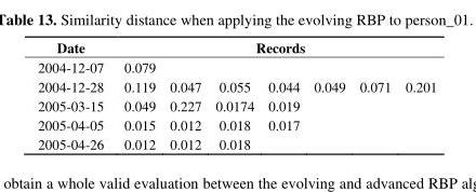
<table><thead><tr><td rowspan="2">Date 2004-12-07</td><td colspan="7">Records</td></tr><tr><td>0.079</td><td></td><td></td><td></td><td></td><td></td><td></td></tr></thead><tbody><tr><td>2004-12-28</td><td>0.119</td><td>0.047</td><td>0.055</td><td>0.044</td><td>0.049</td><td>0.071</td><td>0.201</td></tr><tr><td>2005-03-15</td><td>0.049</td><td>0.227</td><td>0.0174</td><td>0.019</td><td></td><td></td><td></td></tr><tr><td>2005-04-05</td><td>0.015</td><td>0.012</td><td>0.018</td><td>0.017</td><td></td><td></td><td></td></tr><tr><td>2005-04-26</td><td>0.012</td><td>0.012</td><td>0.018</td><td></td><td></td><td></td><td></td></tr></tbody></table>